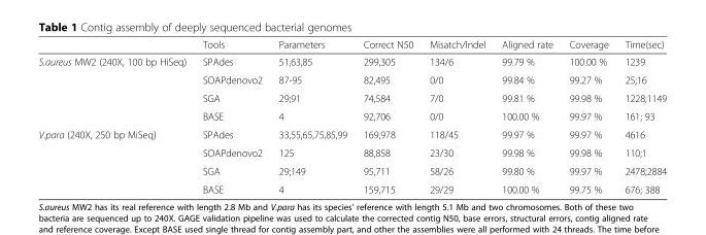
<table><thead><tr><td></td><td>Tools</td><td>Parameters</td><td>Correct N50</td><td>Misatch/Indel</td><td>Aligned rate</td><td>Coverage</td><td>Time(sec)</td></tr></thead><tbody><tr><td rowspan="4">S.aureus MW2 (240X, 100 bp HiSeq)</td><td>SPAdes</td><td>51,63,85</td><td>299,305</td><td>134/6</td><td>99.79 %</td><td>100.00 %</td><td>1239</td></tr><tr><td>SOAPdenovo2</td><td>87-95</td><td>82,495</td><td>0/0</td><td>99.84 %</td><td>99.27 %</td><td>25;16</td></tr><tr><td>SGA</td><td>29;91</td><td>74,584</td><td>7/0</td><td>99.81 %</td><td>99.98 %</td><td>1228;1149</td></tr><tr><td>BASE</td><td>4</td><td>92,706</td><td>0/0</td><td>100.00 %</td><td>99.97 %</td><td>161; 93</td></tr><tr><td rowspan="4">V.para (240X, 250 bp MiSeq)</td><td>SPAdes</td><td>33,55,65,75,85,99</td><td>169,978</td><td>118/45</td><td>99.97 %</td><td>99.97 %</td><td>4616</td></tr><tr><td>SOAPdenovo2</td><td>125</td><td>88,858</td><td>23/30</td><td>99.98 %</td><td>99.98 %</td><td>110;1</td></tr><tr><td>SGA</td><td>29;149</td><td>95,711</td><td>58/26</td><td>99.80 %</td><td>99.97 %</td><td>2478;2884</td></tr><tr><td>BASE</td><td>4</td><td>159,715</td><td>29/29</td><td>100.00 %</td><td>99.75 %</td><td>676; 388</td></tr></tbody></table>